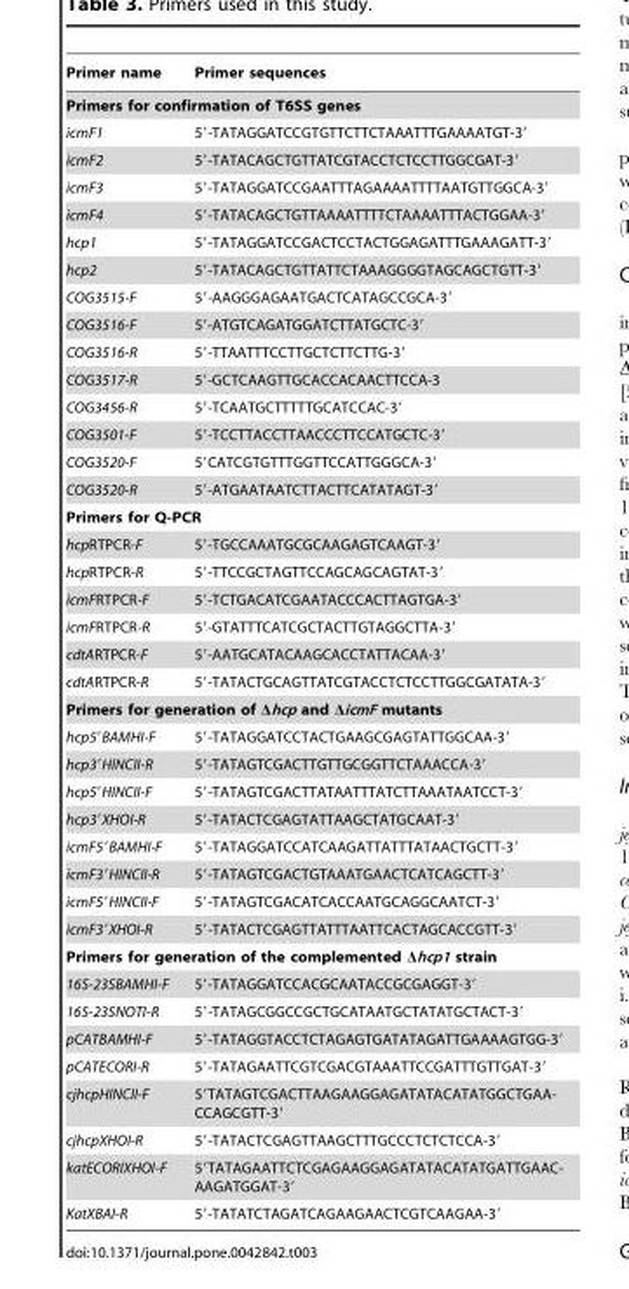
<table><thead><tr><td>Primer name</td><td>Primer sequences</td></tr></thead><tbody><tr><td colspan="2">Primers for confirmation of T6SS genes</td></tr><tr><td>icmF1</td><td>5′-TATAGGATCCGTGTTCTTCTAAATTTGAAAATGT-3′</td></tr><tr><td>icmF2</td><td>5′-TATACAGCTGTTATCGTACCTCTCCTTGGCGAT-3′</td></tr><tr><td>icmF3</td><td>5′-TATAGGATCCGAATTTAGAAAATTTTAATGTTGGCA-3′</td></tr><tr><td>icmF4</td><td>5′-TATACAGCTGTTAAAATTTTCTAAAATTTACTGGAA-3′</td></tr><tr><td>hcp1</td><td>5′-TATAGGATCCGACTCCTACTGGAGATTTGAAAGATT-3′</td></tr><tr><td>hcp2</td><td>5′-TATACAGCTGTTATTCTAAAGGGGTAGCAGCTGTT-3′</td></tr><tr><td>COG3515-F</td><td>5′-AAGGGAGAATGACTCATAGCCGCA-3′</td></tr><tr><td>COG3516-F</td><td>5′-ATGTCAGATGGATCTTATGCTC-3′</td></tr><tr><td>COG3516-R</td><td>5′-TTAATTTCCTTGCTCTTCTTG-3′</td></tr><tr><td>COG3517-R</td><td>5′-GCTCAAGTTGCACCACAACTTCCA-3</td></tr><tr><td>COG3456-R</td><td>5′-TCAATGCTTTTTGCATCCAC-3′</td></tr><tr><td>COG3501-F</td><td>5′-TCCTTACCTTAACCCTTCCATGCTC-3′</td></tr><tr><td>COG3520-F</td><td>5′CATCGTGTTTGGTTCCATTGGGCA-3′</td></tr><tr><td>COG3520-R</td><td>5′-ATGAATAATCTTACTTCATATAGT-3′</td></tr><tr><td colspan="2">Primers for Q-PCR</td></tr><tr><td>hcpRTPCR-F</td><td>5′-TGCCAAATGCGCAAGAGTCAAGT-3′</td></tr><tr><td>hcpRTPCR-R</td><td>5′-TTCCGCTAGTTCCAGCAGCAGTAT-3′</td></tr><tr><td>icmFRTPCR-F</td><td>5′-TCTGACATCGAATACCCACTTAGTGA-3′</td></tr><tr><td>icmFRTPCR-R</td><td>5′-GTATTTCATCGCTACTTGTAGGCTTA-3′</td></tr><tr><td>cdtARTPCR-F</td><td>5′-AATGCATACAAGCACCTATTACAA-3′</td></tr><tr><td>cdtARTPCR-R</td><td>5′-TATACTGCAGTTATCGTACCTCTCCTTGGCGATATA-3′</td></tr><tr><td colspan="2">Primers for generation of Δhcp and ΔicmF mutants</td></tr><tr><td>hcp5′BAMHI-F</td><td>5′-TATAGGATCCTACTGAAGCGAGTATTGGCAA-3′</td></tr><tr><td>hcp3′HINCII-R</td><td>5′-TATAGTCGACTTGTTGCGGTTCTAAACCA-3′</td></tr><tr><td>hcp5′HINCII-F</td><td>5′-TATAGTCGACTTATAATTTATCTTAAATAATCCT-3′</td></tr><tr><td>hcp3′XHOI-R</td><td>5′-TATACTCGAGTATTAAGCTATGCAAT-3′</td></tr><tr><td>icmF5′BAMHI-F</td><td>5′-TATAGGATCCATCAAGATTATTTATAACTGCTT-3′</td></tr><tr><td>icmF3′HINCII-R</td><td>5′-TATAGTCGACTGTAAATGAACTCATCAGCTT-3′</td></tr><tr><td>icmF5′HINCII-F</td><td>5′-TATAGTCGACATCACCAATGCAGGCAATCT-3′</td></tr><tr><td>icmF3′XHOI-R</td><td>5′-TATACTCGAGTTATTTAATTCACTAGCACCGTT-3′</td></tr><tr><td colspan="2">Primers for generation of the complemented Δhcp1 strain</td></tr><tr><td>16S-23SBAMHI-F</td><td>5′-TATAGGATCCACGCAATACCGCGAGGT-3′</td></tr><tr><td>16S-23SNOTI-R</td><td>5′-TATAGCGGCCGCTGCATAATGCTATATGCTACT-3′</td></tr><tr><td>pCATBAMHI-F</td><td>5′-TATAGGTACCTCTAGAGTGATATAGATTGAAAAGTGG-3′</td></tr><tr><td>pCATECORI-R</td><td>5′-TATAGAATTCGTCGACGTAAATTCCGATTTGTTGAT-3′</td></tr><tr><td>cjhcpHINCII-F</td><td>59TATAGTCGACTTAAGAAGGAGATATACATATGGCTGAA- CCAGCGTT-39</td></tr><tr><td>cjhcpXHOI-R</td><td>5′-TATACTCGAGTTAAGCTTTGCCCTCTCTCCA-3′</td></tr><tr><td>katECORIXHOI-F</td><td>59TATAGAATTCTCGAGAAGGAGATATACATATGATTGAAC- AAGATGGAT-39</td></tr><tr><td>KatXBAI-R</td><td>5′-TATATCTAGATCAGAAGAACTCGTCAAGAA-3′</td></tr></tbody></table>